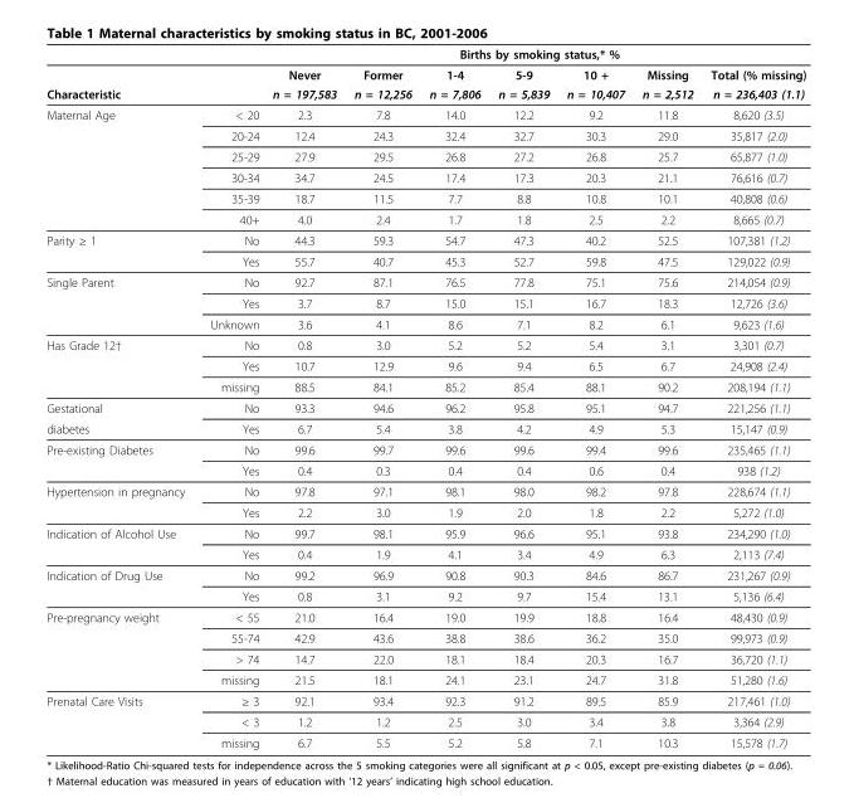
<table><thead><tr><td rowspan="2"></td><td rowspan="2"></td><td colspan="7">Births by smoking status,* %</td></tr><tr><td>Never</td><td>Former</td><td>1-4</td><td>5-9</td><td>10 +</td><td>Missing</td><td>Total (% missing)</td></tr></thead><tbody><tr><td>Characteristic</td><td></td><td>n = 197,583</td><td>n = 12,256</td><td>n = 7,806</td><td>n = 5,839</td><td>n = 10,407</td><td>n = 2,512</td><td>n = 236,403 (1.1)</td></tr><tr><td rowspan="6">Maternal Age</td><td>&lt; 20</td><td>2.3</td><td>7.8</td><td>14.0</td><td>12.2</td><td>9.2</td><td>11.8</td><td>8,620 (3.5)</td></tr><tr><td>20-24</td><td>12.4</td><td>24.3</td><td>32.4</td><td>32.7</td><td>30.3</td><td>29.0</td><td>35,817 (2.0)</td></tr><tr><td>25-29</td><td>27.9</td><td>29.5</td><td>26.8</td><td>27.2</td><td>26.8</td><td>25.7</td><td>65,877 (1.0)</td></tr><tr><td>30-34</td><td>34.7</td><td>24.5</td><td>17.4</td><td>17.3</td><td>20.3</td><td>21.1</td><td>76,616 (0.7)</td></tr><tr><td>35-39</td><td>18.7</td><td>11.5</td><td>7.7</td><td>8.8</td><td>10.8</td><td>10.1</td><td>40,808 (0.6)</td></tr><tr><td>40+</td><td>4.0</td><td>2.4</td><td>1.7</td><td>1.8</td><td>2.5</td><td>2.2</td><td>8,665 (0.7)</td></tr><tr><td rowspan="2">Parity ≥ 1</td><td>No</td><td>44.3</td><td>59.3</td><td>54.7</td><td>47.3</td><td>40.2</td><td>52.5</td><td>107,381 (1.2)</td></tr><tr><td>Yes</td><td>55.7</td><td>40.7</td><td>45.3</td><td>52.7</td><td>59.8</td><td>47.5</td><td>129,022 (0.9)</td></tr><tr><td rowspan="3">Single Parent</td><td>No</td><td>92.7</td><td>87.1</td><td>76.5</td><td>77.8</td><td>75.1</td><td>75.6</td><td>214,054 (0.9)</td></tr><tr><td>Yes</td><td>3.7</td><td>8.7</td><td>15.0</td><td>15.1</td><td>16.7</td><td>18.3</td><td>12,726 (3.6)</td></tr><tr><td>Unknown</td><td>3.6</td><td>4.1</td><td>8.6</td><td>7.1</td><td>8.2</td><td>6.1</td><td>9,623 (1.6)</td></tr><tr><td rowspan="3">Has Grade 12†</td><td>No</td><td>0.8</td><td>3.0</td><td>5.2</td><td>5.2</td><td>5.4</td><td>3.1</td><td>3,301 (0.7)</td></tr><tr><td>Yes</td><td>10.7</td><td>12.9</td><td>9.6</td><td>9.4</td><td>6.5</td><td>6.7</td><td>24,908 (2.4)</td></tr><tr><td>missing</td><td>88.5</td><td>84.1</td><td>85.2</td><td>85.4</td><td>88.1</td><td>90.2</td><td>208,194 (1.1)</td></tr><tr><td>Gestational</td><td>No</td><td>93.3</td><td>94.6</td><td>96.2</td><td>95.8</td><td>95.1</td><td>94.7</td><td>221,256 (1.1)</td></tr><tr><td>diabetes</td><td>Yes</td><td>6.7</td><td>5.4</td><td>3.8</td><td>4.2</td><td>4.9</td><td>5.3</td><td>15,147 (0.9)</td></tr><tr><td rowspan="2">Pre-existing Diabetes</td><td>No</td><td>99.6</td><td>99.7</td><td>99.6</td><td>99.6</td><td>99.4</td><td>99.6</td><td>235,465 (1.1)</td></tr><tr><td>Yes</td><td>0.4</td><td>0.3</td><td>0.4</td><td>0.4</td><td>0.6</td><td>0.4</td><td>938 (1.2)</td></tr><tr><td rowspan="2">Hypertension in pregnancy</td><td>No</td><td>97.8</td><td>97.1</td><td>98.1</td><td>98.0</td><td>98.2</td><td>97.8</td><td>228,674 (1.1)</td></tr><tr><td>Yes</td><td>2.2</td><td>3.0</td><td>1.9</td><td>2.0</td><td>1.8</td><td>2.2</td><td>5,272 (1.0)</td></tr><tr><td rowspan="2">Indication of Alcohol Use</td><td>No</td><td>99.7</td><td>98.1</td><td>95.9</td><td>96.6</td><td>95.1</td><td>93.8</td><td>234,290 (1.0)</td></tr><tr><td>Yes</td><td>0.4</td><td>1.9</td><td>4.1</td><td>3.4</td><td>4.9</td><td>6.3</td><td>2,113 (7.4)</td></tr><tr><td rowspan="2">Indication of Drug Use</td><td>No</td><td>99.2</td><td>96.9</td><td>90.8</td><td>90.3</td><td>84.6</td><td>86.7</td><td>231,267 (0.9)</td></tr><tr><td>Yes</td><td>0.8</td><td>3.1</td><td>9.2</td><td>9.7</td><td>15.4</td><td>13.1</td><td>5,136 (6.4)</td></tr><tr><td rowspan="4">Pre-pregnancy weight</td><td>&lt; 55</td><td>21.0</td><td>16.4</td><td>19.0</td><td>19.9</td><td>18.8</td><td>16.4</td><td>48,430 (0.9)</td></tr><tr><td>55-74</td><td>42.9</td><td>43.6</td><td>38.8</td><td>38.6</td><td>36.2</td><td>35.0</td><td>99,973 (0.9)</td></tr><tr><td>&gt; 74</td><td>14.7</td><td>22.0</td><td>18.1</td><td>18.4</td><td>20.3</td><td>16.7</td><td>36,720 (1.1)</td></tr><tr><td>missing</td><td>21.5</td><td>18.1</td><td>24.1</td><td>23.1</td><td>24.7</td><td>31.8</td><td>51,280 (1.6)</td></tr><tr><td rowspan="3">Prenatal Care Visits</td><td>≥ 3</td><td>92.1</td><td>93.4</td><td>92.3</td><td>91.2</td><td>89.5</td><td>85.9</td><td>217,461 (1.0)</td></tr><tr><td>&lt; 3</td><td>1.2</td><td>1.2</td><td>2.5</td><td>3.0</td><td>3.4</td><td>3.8</td><td>3,364 (2.9)</td></tr><tr><td>missing</td><td>6.7</td><td>5.5</td><td>5.2</td><td>5.8</td><td>7.1</td><td>10.3</td><td>15,578 (1.7)</td></tr></tbody></table>